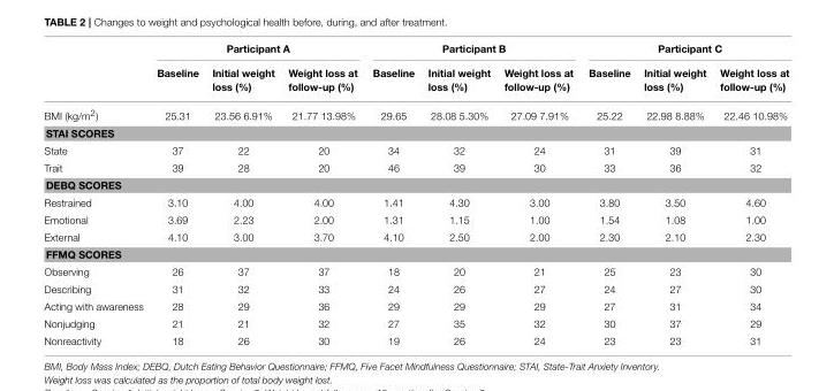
<table><thead><tr><td rowspan="2"></td><td colspan="3">Participant A</td><td colspan="3">Participant B</td><td colspan="3">Participant C</td></tr><tr><td>Baseline</td><td>Initial weight loss (%)</td><td>Weight loss at follow-up (%)</td><td>Baseline</td><td>Initial weight loss (%)</td><td>Weight loss at follow-up (%)</td><td>Baseline</td><td>Initial weight loss (%)</td><td>Weight loss at follow-up (%)</td></tr></thead><tbody><tr><td>BMI (kg/m<sup>2</sup>)</td><td>25.31</td><td>23.56 6.91%</td><td>21.77 13.98%</td><td>29.65</td><td>28.08 5.30%</td><td>27.09 7.91%</td><td>25.22</td><td>22.98 8.88%</td><td>22.46 10.98%</td></tr><tr><td colspan="10">STAI SCORES</td></tr><tr><td>State</td><td>37</td><td>22</td><td>20</td><td>34</td><td>32</td><td>24</td><td>31</td><td>39</td><td>31</td></tr><tr><td>Trait</td><td>39</td><td>28</td><td>20</td><td>46</td><td>39</td><td>30</td><td>33</td><td>36</td><td>32</td></tr><tr><td colspan="10">DEBQ SCORES</td></tr><tr><td>Restrained</td><td>3.10</td><td>4.00</td><td>4.00</td><td>1.41</td><td>4.30</td><td>3.00</td><td>3.80</td><td>3.50</td><td>4.60</td></tr><tr><td>Emotional</td><td>3.69</td><td>2.23</td><td>2.00</td><td>1.31</td><td>1.15</td><td>1.00</td><td>1.54</td><td>1.08</td><td>1.00</td></tr><tr><td>External</td><td>4.10</td><td>3.00</td><td>3.70</td><td>4.10</td><td>2.50</td><td>2.00</td><td>2.30</td><td>2.10</td><td>2.30</td></tr><tr><td colspan="10">FFMQ SCORES</td></tr><tr><td>Observing</td><td>26</td><td>37</td><td>37</td><td>18</td><td>20</td><td>21</td><td>25</td><td>23</td><td>30</td></tr><tr><td>Describing</td><td>31</td><td>32</td><td>33</td><td>24</td><td>26</td><td>27</td><td>24</td><td>27</td><td>30</td></tr><tr><td>Acting with awareness</td><td>28</td><td>29</td><td>36</td><td>29</td><td>29</td><td>29</td><td>27</td><td>31</td><td>34</td></tr><tr><td>Nonjudging</td><td>21</td><td>21</td><td>32</td><td>27</td><td>35</td><td>32</td><td>30</td><td>37</td><td>29</td></tr><tr><td>Nonreactivity</td><td>18</td><td>26</td><td>30</td><td>19</td><td>26</td><td>24</td><td>23</td><td>23</td><td>31</td></tr></tbody></table>